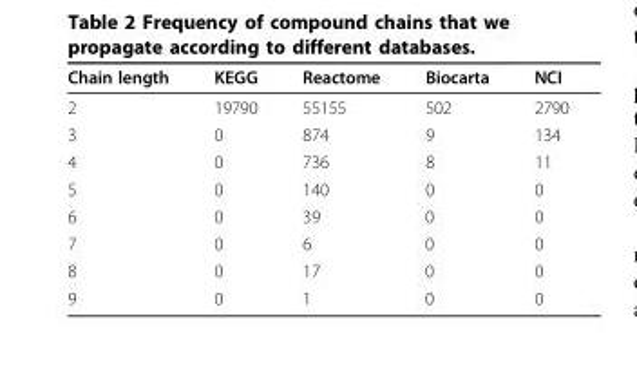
<table><thead><tr><td>Chain length</td><td>KEGG</td><td>Reactome</td><td>Biocarta</td><td>NCI</td></tr></thead><tbody><tr><td>2</td><td>19790</td><td>55155</td><td>502</td><td>2790</td></tr><tr><td>3</td><td>0</td><td>874</td><td>9</td><td>134</td></tr><tr><td>4</td><td>0</td><td>736</td><td>8</td><td>11</td></tr><tr><td>5</td><td>0</td><td>140</td><td>0</td><td>0</td></tr><tr><td>6</td><td>0</td><td>39</td><td>0</td><td>0</td></tr><tr><td>7</td><td>0</td><td>6</td><td>0</td><td>0</td></tr><tr><td>8</td><td>0</td><td>17</td><td>0</td><td>0</td></tr><tr><td>9</td><td>0</td><td>1</td><td>0</td><td>0</td></tr></tbody></table>